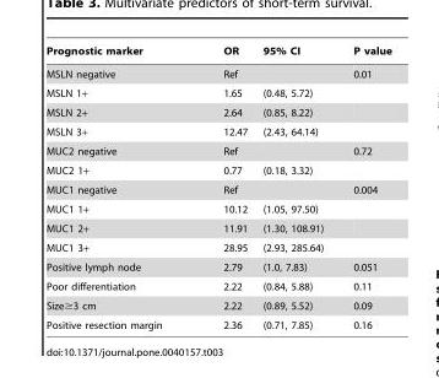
<table><thead><tr><td>Prognostic marker</td><td>OR</td><td>95% CI</td><td>P value</td></tr></thead><tbody><tr><td>MSLN negative</td><td>Ref</td><td></td><td>0.01</td></tr><tr><td>MSLN 1+</td><td>1.65</td><td>(0.48, 5.72)</td><td></td></tr><tr><td>MSLN 2+</td><td>2.64</td><td>(0.85, 8.22)</td><td></td></tr><tr><td>MSLN 3+</td><td>12.47</td><td>(2.43, 64.14)</td><td></td></tr><tr><td>MUC2 negative</td><td>Ref</td><td></td><td>0.72</td></tr><tr><td>MUC2 1+</td><td>0.77</td><td>(0.18, 3.32)</td><td></td></tr><tr><td>MUC1 negative</td><td>Ref</td><td></td><td>0.004</td></tr><tr><td>MUC1 1+</td><td>10.12</td><td>(1.05, 97.50)</td><td></td></tr><tr><td>MUC1 2+</td><td>11.91</td><td>(1.30, 108.91)</td><td></td></tr><tr><td>MUC1 3+</td><td>28.95</td><td>(2.93, 285.64)</td><td></td></tr><tr><td>Positive lymph node</td><td>2.79</td><td>(1.0, 7.83)</td><td>0.051</td></tr><tr><td>Poor differentiation</td><td>2.22</td><td>(0.84, 5.88)</td><td>0.11</td></tr><tr><td>Size≥3 cm</td><td>2.22</td><td>(0.89, 5.52)</td><td>0.09</td></tr><tr><td>Positive resection margin</td><td>2.36</td><td>(0.71, 7.85)</td><td>0.16</td></tr></tbody></table>